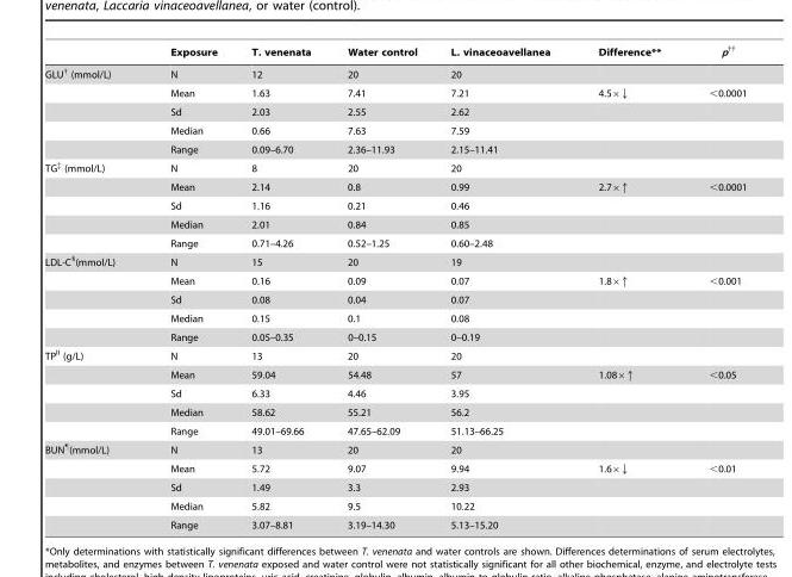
<table><thead><tr><td></td><td>Exposure</td><td>T. venenata</td><td>Water control</td><td>L. vinaceoavellanea</td><td>Difference**</td><td>p††</td></tr></thead><tbody><tr><td rowspan="5">GLU† (mmol/L)</td><td>N</td><td>12</td><td>20</td><td>20</td><td></td><td></td></tr><tr><td>Mean</td><td>1.63</td><td>7.41</td><td>7.21</td><td>4.5×↓</td><td>&lt;0.0001</td></tr><tr><td>Sd</td><td>2.03</td><td>2.55</td><td>2.62</td><td></td><td></td></tr><tr><td>Median</td><td>0.66</td><td>7.63</td><td>7.59</td><td></td><td></td></tr><tr><td>Range</td><td>0.09–6.70</td><td>2.36–11.93</td><td>2.15–11.41</td><td></td><td></td></tr><tr><td rowspan="5">TG‡ (mmol/L)</td><td>N</td><td>8</td><td>20</td><td>20</td><td></td><td></td></tr><tr><td>Mean</td><td>2.14</td><td>0.8</td><td>0.99</td><td>2.7×↑</td><td>&lt;0.0001</td></tr><tr><td>Sd</td><td>1.16</td><td>0.21</td><td>0.46</td><td></td><td></td></tr><tr><td>Median</td><td>2.01</td><td>0.84</td><td>0.85</td><td></td><td></td></tr><tr><td>Range</td><td>0.71–4.26</td><td>0.52–1.25</td><td>0.60–2.48</td><td></td><td></td></tr><tr><td rowspan="5">LDL-C§(mmol/L)</td><td>N</td><td>15</td><td>20</td><td>19</td><td></td><td></td></tr><tr><td>Mean</td><td>0.16</td><td>0.09</td><td>0.07</td><td>1.8×↑</td><td>&lt;0.001</td></tr><tr><td>Sd</td><td>0.08</td><td>0.04</td><td>0.07</td><td></td><td></td></tr><tr><td>Median</td><td>0.15</td><td>0.1</td><td>0.08</td><td></td><td></td></tr><tr><td>Range</td><td>0.05–0.35</td><td>0–0.15</td><td>0–0.19</td><td></td><td></td></tr><tr><td rowspan="5">TPll (g/L)</td><td>N</td><td>13</td><td>20</td><td>20</td><td></td><td></td></tr><tr><td>Mean</td><td>59.04</td><td>54.48</td><td>57</td><td>1.08×↑</td><td>&lt;0.05</td></tr><tr><td>Sd</td><td>6.33</td><td>4.46</td><td>3.95</td><td></td><td></td></tr><tr><td>Median</td><td>58.62</td><td>55.21</td><td>56.2</td><td></td><td></td></tr><tr><td>Range</td><td>49.01–69.66</td><td>47.65–62.09</td><td>51.13–66.25</td><td></td><td></td></tr><tr><td rowspan="5">BUN¶(mmol/L)</td><td>N</td><td>13</td><td>20</td><td>20</td><td></td><td></td></tr><tr><td>Mean</td><td>5.72</td><td>9.07</td><td>9.94</td><td>1.6×↓</td><td>&lt;0.01</td></tr><tr><td>Sd</td><td>1.49</td><td>3.3</td><td>2.93</td><td></td><td></td></tr><tr><td>Median</td><td>5.82</td><td>9.5</td><td>10.22</td><td></td><td></td></tr><tr><td>Range</td><td>3.07–8.81</td><td>3.19–14.30</td><td>5.13–15.20</td><td></td><td></td></tr></tbody></table>